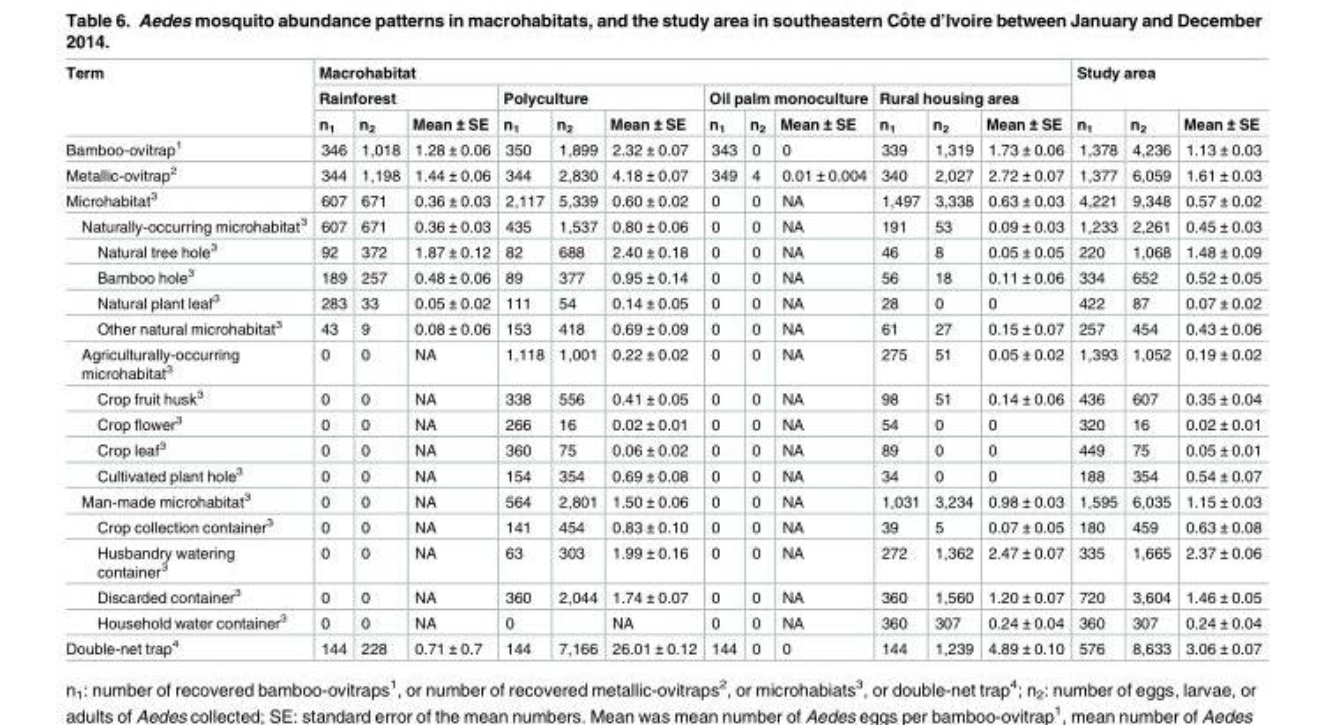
<table><thead><tr><td rowspan="3">Term</td><td colspan="12">Macrohabitat</td><td rowspan="2" colspan="3">Study area</td></tr><tr><td colspan="3">Rainforest</td><td colspan="3">Polyculture</td><td colspan="3">Oil palm monoculture</td><td colspan="3">Rural housing area</td></tr><tr><td>n<sub>1</sub></td><td>n<sub>2</sub></td><td>Mean ± SE</td><td>n<sub>1</sub></td><td>n<sub>2</sub></td><td>Mean ± SE</td><td>n<sub>1</sub></td><td>n<sub>2</sub></td><td>Mean ± SE</td><td>n<sub>1</sub></td><td>n<sub>2</sub></td><td>Mean ± SE</td><td>n<sub>1</sub></td><td>n<sub>2</sub></td><td>Mean ± SE</td></tr></thead><tbody><tr><td>Bamboo-ovitrap<sup>1</sup></td><td>346</td><td>1,018</td><td>1.28 ± 0.06</td><td>350</td><td>1,899</td><td>2.32 ± 0.07</td><td>343</td><td>0</td><td>0</td><td>339</td><td>1,319</td><td>1.73 ± 0.06</td><td>1,378</td><td>4,236</td><td>1.13 ± 0.03</td></tr><tr><td>Metallic-ovitrap<sup>2</sup></td><td>344</td><td>1,198</td><td>1.44 ± 0.06</td><td>344</td><td>2,830</td><td>4.18 ± 0.07</td><td>349</td><td>4</td><td>0.01 ± 0.004</td><td>340</td><td>2,027</td><td>2.72 ± 0.07</td><td>1,377</td><td>6,059</td><td>1.61 ± 0.03</td></tr><tr><td>Microhabitat<sup>3</sup></td><td>607</td><td>671</td><td>0.36 ± 0.03</td><td>2,117</td><td>5,339</td><td>0.60 ± 0.02</td><td>0</td><td>0</td><td>NA</td><td>1,497</td><td>3,338</td><td>0.63 ± 0.03</td><td>4,221</td><td>9,348</td><td>0.57 ± 0.02</td></tr><tr><td>Naturally-occurring microhabitat<sup>3</sup></td><td>607</td><td>671</td><td>0.36 ± 0.03</td><td>435</td><td>1,537</td><td>0.80 ± 0.06</td><td>0</td><td>0</td><td>NA</td><td>191</td><td>53</td><td>0.09 ± 0.03</td><td>1,233</td><td>2,261</td><td>0.45 ± 0.03</td></tr><tr><td>Natural tree hole<sup>3</sup></td><td>92</td><td>372</td><td>1.87 ± 0.12</td><td>82</td><td>688</td><td>2.40 ± 0.18</td><td>0</td><td>0</td><td>NA</td><td>46</td><td>8</td><td>0.05 ± 0.05</td><td>220</td><td>1,068</td><td>1.48 ± 0.09</td></tr><tr><td>Bamboo hole<sup>3</sup></td><td>189</td><td>257</td><td>0.48 ± 0.06</td><td>89</td><td>377</td><td>0.95 ± 0.14</td><td>0</td><td>0</td><td>NA</td><td>56</td><td>18</td><td>0.11 ± 0.06</td><td>334</td><td>652</td><td>0.52 ± 0.05</td></tr><tr><td>Natural plant leaf<sup>3</sup></td><td>283</td><td>33</td><td>0.05 ± 0.02</td><td>111</td><td>54</td><td>0.14 ± 0.05</td><td>0</td><td>0</td><td>NA</td><td>28</td><td>0</td><td>0</td><td>422</td><td>87</td><td>0.07 ± 0.02</td></tr><tr><td>Other natural microhabitat<sup>3</sup></td><td>43</td><td>9</td><td>0.08 ± 0.06</td><td>153</td><td>418</td><td>0.69 ± 0.09</td><td>0</td><td>0</td><td>NA</td><td>61</td><td>27</td><td>0.15 ± 0.07</td><td>257</td><td>454</td><td>0.43 ± 0.06</td></tr><tr><td>Agriculturally-occurring microhabitat<sup>3</sup></td><td>0</td><td>0</td><td>NA</td><td>1,118</td><td>1,001</td><td>0.22 ± 0.02</td><td>0</td><td>0</td><td>NA</td><td>275</td><td>51</td><td>0.05 ± 0.02</td><td>1,393</td><td>1,052</td><td>0.19 ± 0.02</td></tr><tr><td>Crop fruit husk<sup>3</sup></td><td>0</td><td>0</td><td>NA</td><td>338</td><td>556</td><td>0.41 ± 0.05</td><td>0</td><td>0</td><td>NA</td><td>98</td><td>51</td><td>0.14 ± 0.06</td><td>436</td><td>607</td><td>0.35 ± 0.04</td></tr><tr><td>Crop flower<sup>3</sup></td><td>0</td><td>0</td><td>NA</td><td>266</td><td>16</td><td>0.02 ± 0.01</td><td>0</td><td>0</td><td>NA</td><td>54</td><td>0</td><td>0</td><td>320</td><td>16</td><td>0.02 ± 0.01</td></tr><tr><td>Crop leaf<sup>3</sup></td><td>0</td><td>0</td><td>NA</td><td>360</td><td>75</td><td>0.06 ± 0.02</td><td>0</td><td>0</td><td>NA</td><td>89</td><td>0</td><td>0</td><td>449</td><td>75</td><td>0.05 ± 0.01</td></tr><tr><td>Cultivated plant hole<sup>3</sup></td><td>0</td><td>0</td><td>NA</td><td>154</td><td>354</td><td>0.69 ± 0.08</td><td>0</td><td>0</td><td>NA</td><td>34</td><td>0</td><td>0</td><td>188</td><td>354</td><td>0.54 ± 0.07</td></tr><tr><td>Man-made microhabitat<sup>3</sup></td><td>0</td><td>0</td><td>NA</td><td>564</td><td>2,801</td><td>1.50 ± 0.06</td><td>0</td><td>0</td><td>NA</td><td>1,031</td><td>3,234</td><td>0.98 ± 0.03</td><td>1,595</td><td>6,035</td><td>1.15 ± 0.03</td></tr><tr><td>Crop collection container<sup>3</sup></td><td>0</td><td>0</td><td>NA</td><td>141</td><td>454</td><td>0.83 ± 0.10</td><td>0</td><td>0</td><td>NA</td><td>39</td><td>5</td><td>0.07 ± 0.05</td><td>180</td><td>459</td><td>0.63 ± 0.08</td></tr><tr><td>Husbandry watering container<sup>3</sup></td><td>0</td><td>0</td><td>NA</td><td>63</td><td>303</td><td>1.99 ± 0.16</td><td>0</td><td>0</td><td>NA</td><td>272</td><td>1,362</td><td>2.47 ± 0.07</td><td>335</td><td>1,665</td><td>2.37 ± 0.06</td></tr><tr><td>Discarded container<sup>3</sup></td><td>0</td><td>0</td><td>NA</td><td>360</td><td>2,044</td><td>1.74 ± 0.07</td><td>0</td><td>0</td><td>NA</td><td>360</td><td>1,560</td><td>1.20 ± 0.07</td><td>720</td><td>3,604</td><td>1.46 ± 0.05</td></tr><tr><td>Household water container<sup>3</sup></td><td>0</td><td>0</td><td>NA</td><td>0</td><td></td><td>NA</td><td>0</td><td>0</td><td>NA</td><td>360</td><td>307</td><td>0.24 ± 0.04</td><td>360</td><td>307</td><td>0.24 ± 0.04</td></tr><tr><td>Double-net trap<sup>4</sup></td><td>144</td><td>228</td><td>0.71 ± 0.7</td><td>144</td><td>7,166</td><td>26.01 ± 0.12</td><td>144</td><td>0</td><td>0</td><td>144</td><td>1,239</td><td>4.89 ± 0.10</td><td>576</td><td>8,633</td><td>3.06 ± 0.07</td></tr></tbody></table>